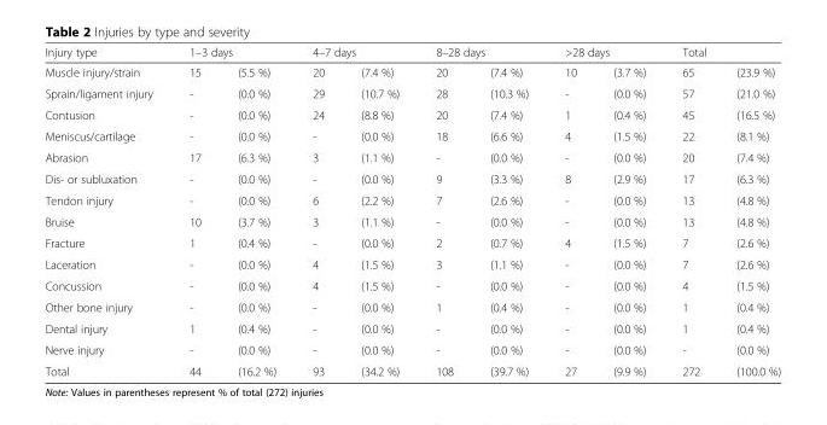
<table><thead><tr><td rowspan="2">Injury type Muscle injury/strain</td><td colspan="2">1–3 days</td><td colspan="2">4–7 days</td><td colspan="2">8–28 days</td><td colspan="2">&gt;28 days</td><td colspan="2">Total</td></tr><tr><td>15</td><td>(5.5 %)</td><td>20</td><td>(7.4 %)</td><td>20</td><td>(7.4 %)</td><td>10</td><td>(3.7 %)</td><td>65</td><td>(23.9 %)</td></tr></thead><tbody><tr><td>Sprain/ligament injury</td><td>-</td><td>(0.0 %)</td><td>29</td><td>(10.7 %)</td><td>28</td><td>(10.3 %)</td><td>-</td><td>(0.0 %)</td><td>57</td><td>(21.0 %)</td></tr><tr><td>Contusion</td><td>-</td><td>(0.0 %)</td><td>24</td><td>(8.8 %)</td><td>20</td><td>(7.4 %)</td><td>1</td><td>(0.4 %)</td><td>45</td><td>(16.5 %)</td></tr><tr><td>Meniscus/cartilage</td><td>-</td><td>(0.0 %)</td><td>-</td><td>(0.0 %)</td><td>18</td><td>(6.6 %)</td><td>4</td><td>(1.5 %)</td><td>22</td><td>(8.1 %)</td></tr><tr><td>Abrasion</td><td>17</td><td>(6.3 %)</td><td>3</td><td>(1.1 %)</td><td>-</td><td>(0.0 %)</td><td>-</td><td>(0.0 %)</td><td>20</td><td>(7.4 %)</td></tr><tr><td>Dis- or subluxation</td><td>-</td><td>(0.0 %)</td><td>-</td><td>(0.0 %)</td><td>9</td><td>(3.3 %)</td><td>8</td><td>(2.9 %)</td><td>17</td><td>(6.3 %)</td></tr><tr><td>Tendon injury</td><td>-</td><td>(0.0 %)</td><td>6</td><td>(2.2 %)</td><td>7</td><td>(2.6 %)</td><td>-</td><td>(0.0 %)</td><td>13</td><td>(4.8 %)</td></tr><tr><td>Bruise</td><td>10</td><td>(3.7 %)</td><td>3</td><td>(1.1 %)</td><td>-</td><td>(0.0 %)</td><td>-</td><td>(0.0 %)</td><td>13</td><td>(4.8 %)</td></tr><tr><td>Fracture</td><td>1</td><td>(0.4 %)</td><td>-</td><td>(0.0 %)</td><td>2</td><td>(0.7 %)</td><td>4</td><td>(1.5 %)</td><td>7</td><td>(2.6 %)</td></tr><tr><td>Laceration</td><td>-</td><td>(0.0 %)</td><td>4</td><td>(1.5 %)</td><td>3</td><td>(1.1 %)</td><td>-</td><td>(0.0 %)</td><td>7</td><td>(2.6 %)</td></tr><tr><td>Concussion</td><td>-</td><td>(0.0 %)</td><td>4</td><td>(1.5 %)</td><td>-</td><td>(0.0 %)</td><td>-</td><td>(0.0 %)</td><td>4</td><td>(1.5 %)</td></tr><tr><td>Other bone injury</td><td>-</td><td>(0.0 %)</td><td>-</td><td>(0.0 %)</td><td>1</td><td>(0.4 %)</td><td>-</td><td>(0.0 %)</td><td>1</td><td>(0.4 %)</td></tr><tr><td>Dental injury</td><td>1</td><td>(0.4 %)</td><td>-</td><td>(0.0 %)</td><td>-</td><td>(0.0 %)</td><td>-</td><td>(0.0 %)</td><td>1</td><td>(0.4 %)</td></tr><tr><td>Nerve injury</td><td>-</td><td>(0.0 %)</td><td>-</td><td>(0.0 %)</td><td>-</td><td>(0.0 %)</td><td>-</td><td>(0.0 %)</td><td>-</td><td>(0.0 %)</td></tr><tr><td>Total</td><td>44</td><td>(16.2 %)</td><td>93</td><td>(34.2 %)</td><td>108</td><td>(39.7 %)</td><td>27</td><td>(9.9 %)</td><td>272</td><td>(100.0 %)</td></tr></tbody></table>